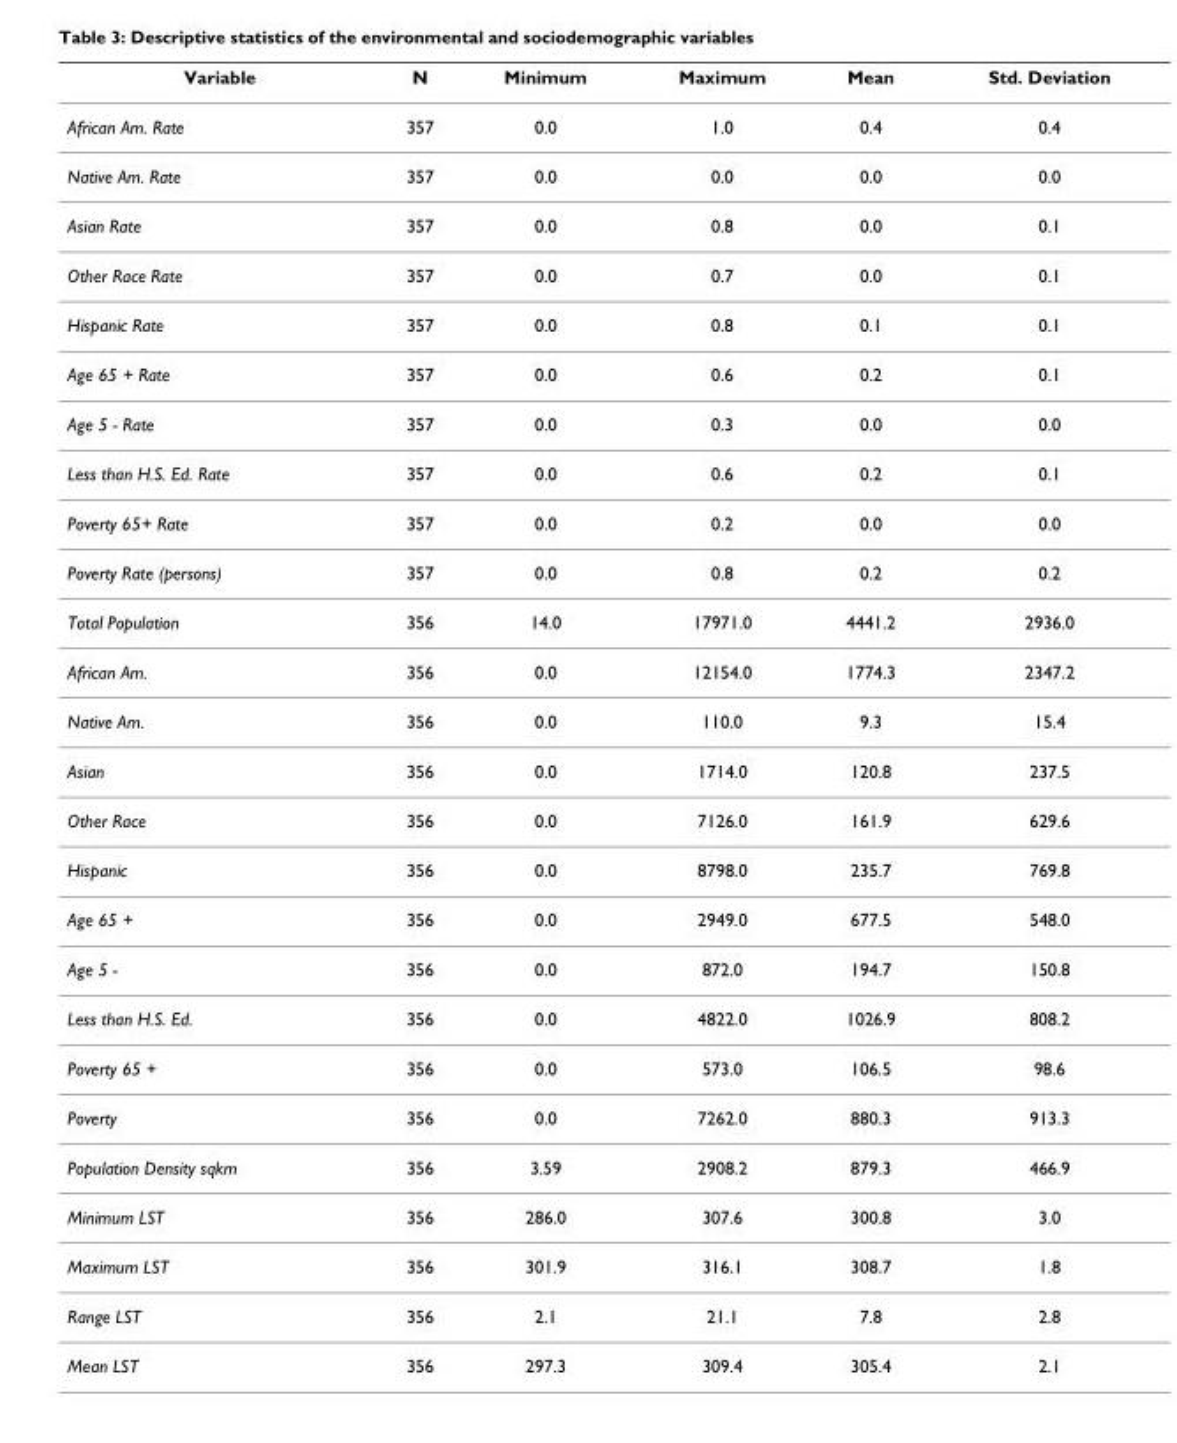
<table><thead><tr><td>Variable</td><td>N</td><td>Minimum</td><td>Maximum</td><td>Mean</td><td>Std. Deviation</td></tr></thead><tbody><tr><td>African Am. Rate</td><td>357</td><td>0.0</td><td>1.0</td><td>0.4</td><td>0.4</td></tr><tr><td>Native Am. Rate</td><td>357</td><td>0.0</td><td>0.0</td><td>0.0</td><td>0.0</td></tr><tr><td>Asian Rate</td><td>357</td><td>0.0</td><td>0.8</td><td>0.0</td><td>0.1</td></tr><tr><td>Other Race Rate</td><td>357</td><td>0.0</td><td>0.7</td><td>0.0</td><td>0.1</td></tr><tr><td>Hispanic Rate</td><td>357</td><td>0.0</td><td>0.8</td><td>0.1</td><td>0.1</td></tr><tr><td>Age 65 + Rate</td><td>357</td><td>0.0</td><td>0.6</td><td>0.2</td><td>0.1</td></tr><tr><td>Age 5 - Rate</td><td>357</td><td>0.0</td><td>0.3</td><td>0.0</td><td>0.0</td></tr><tr><td>Less than H.S. Ed. Rate</td><td>357</td><td>0.0</td><td>0.6</td><td>0.2</td><td>0.1</td></tr><tr><td>Poverty 65+ Rate</td><td>357</td><td>0.0</td><td>0.2</td><td>0.0</td><td>0.0</td></tr><tr><td>Poverty Rate (persons)</td><td>357</td><td>0.0</td><td>0.8</td><td>0.2</td><td>0.2</td></tr><tr><td>Total Population</td><td>356</td><td>14.0</td><td>17971.0</td><td>4441.2</td><td>2936.0</td></tr><tr><td>African Am.</td><td>356</td><td>0.0</td><td>12154.0</td><td>1774.3</td><td>2347.2</td></tr><tr><td>Native Am.</td><td>356</td><td>0.0</td><td>110.0</td><td>9.3</td><td>15.4</td></tr><tr><td>Asian</td><td>356</td><td>0.0</td><td>1714.0</td><td>120.8</td><td>237.5</td></tr><tr><td>Other Race</td><td>356</td><td>0.0</td><td>7126.0</td><td>161.9</td><td>629.6</td></tr><tr><td>Hispanic</td><td>356</td><td>0.0</td><td>8798.0</td><td>235.7</td><td>769.8</td></tr><tr><td>Age 65 +</td><td>356</td><td>0.0</td><td>2949.0</td><td>677.5</td><td>548.0</td></tr><tr><td>Age 5 -</td><td>356</td><td>0.0</td><td>872.0</td><td>194.7</td><td>150.8</td></tr><tr><td>Less than H.S. Ed.</td><td>356</td><td>0.0</td><td>4822.0</td><td>1026.9</td><td>808.2</td></tr><tr><td>Poverty 65 +</td><td>356</td><td>0.0</td><td>573.0</td><td>106.5</td><td>98.6</td></tr><tr><td>Poverty</td><td>356</td><td>0.0</td><td>7262.0</td><td>880.3</td><td>913.3</td></tr><tr><td>Population Density sqkm</td><td>356</td><td>3.59</td><td>2908.2</td><td>879.3</td><td>466.9</td></tr><tr><td>Minimum LST</td><td>356</td><td>286.0</td><td>307.6</td><td>300.8</td><td>3.0</td></tr><tr><td>Maximum LST</td><td>356</td><td>301.9</td><td>316.1</td><td>308.7</td><td>1.8</td></tr><tr><td>Range LST</td><td>356</td><td>2.1</td><td>21.1</td><td>7.8</td><td>2.8</td></tr><tr><td>Mean LST</td><td>356</td><td>297.3</td><td>309.4</td><td>305.4</td><td>2.1</td></tr></tbody></table>